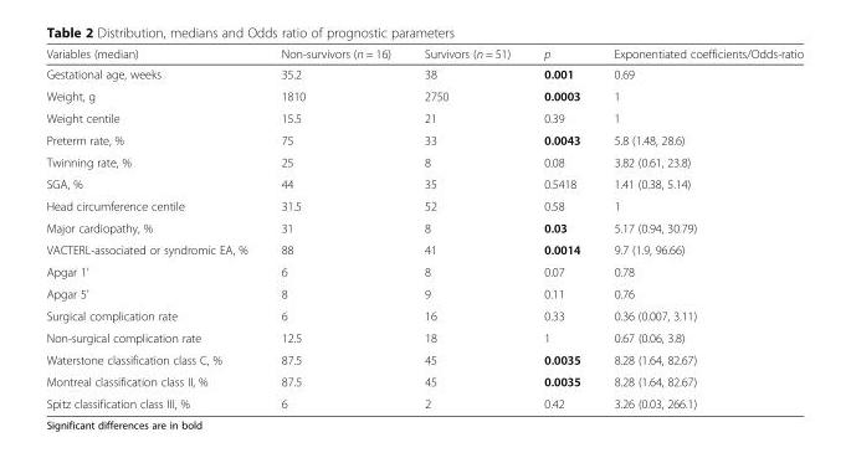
<table><thead><tr><td>Variables (median)</td><td>Non-survivors (n = 16)</td><td>Survivors (n = 51)</td><td>p</td><td>Exponentiated coefficients/Odds-ratio</td></tr></thead><tbody><tr><td>Gestational age, weeks</td><td>35.2</td><td>38</td><td>0.001</td><td>0.69</td></tr><tr><td>Weight, g</td><td>1810</td><td>2750</td><td>0.0003</td><td>1</td></tr><tr><td>Weight centile</td><td>15.5</td><td>21</td><td>0.39</td><td>1</td></tr><tr><td>Preterm rate, %</td><td>75</td><td>33</td><td>0.0043</td><td>5.8 (1.48, 28.6)</td></tr><tr><td>Twinning rate, %</td><td>25</td><td>8</td><td>0.08</td><td>3.82 (0.61, 23.8)</td></tr><tr><td>SGA, %</td><td>44</td><td>35</td><td>0.5418</td><td>1.41 (0.38, 5.14)</td></tr><tr><td>Head circumference centile</td><td>31.5</td><td>52</td><td>0.58</td><td>1</td></tr><tr><td>Major cardiopathy, %</td><td>31</td><td>8</td><td>0.03</td><td>5.17 (0.94, 30.79)</td></tr><tr><td>VACTERL-associated or syndromic EA, %</td><td>88</td><td>41</td><td>0.0014</td><td>9.7 (1.9, 96.66)</td></tr><tr><td>Apgar 1’</td><td>6</td><td>8</td><td>0.07</td><td>0.78</td></tr><tr><td>Apgar 5’</td><td>8</td><td>9</td><td>0.11</td><td>0.76</td></tr><tr><td>Surgical complication rate</td><td>6</td><td>16</td><td>0.33</td><td>0.36 (0.007, 3.11)</td></tr><tr><td>Non-surgical complication rate</td><td>12.5</td><td>18</td><td>1</td><td>0.67 (0.06, 3.8)</td></tr><tr><td>Waterstone classification class C, %</td><td>87.5</td><td>45</td><td>0.0035</td><td>8.28 (1.64, 82.67)</td></tr><tr><td>Montreal classification class II, %</td><td>87.5</td><td>45</td><td>0.0035</td><td>8.28 (1.64, 82.67)</td></tr><tr><td>Spitz classification class III, %</td><td>6</td><td>2</td><td>0.42</td><td>3.26 (0.03, 266.1)</td></tr></tbody></table>